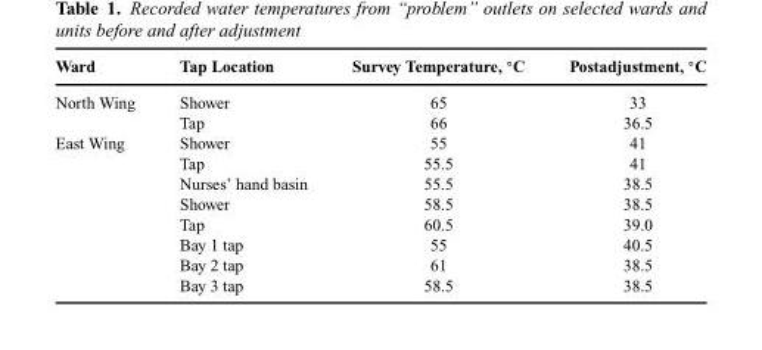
<table><thead><tr><td>Ward</td><td>Tap Location</td><td>Survey Temperature, ◦C</td><td>Postadjustment, ◦C</td></tr></thead><tbody><tr><td rowspan="2">North Wing</td><td>Shower</td><td>65</td><td>33</td></tr><tr><td>Tap</td><td>66</td><td>36.5</td></tr><tr><td rowspan="8">East Wing</td><td>Shower</td><td>55</td><td>41</td></tr><tr><td>Tap</td><td>55.5</td><td>41</td></tr><tr><td>Nurses’ hand basin</td><td>55.5</td><td>38.5</td></tr><tr><td>Shower</td><td>58.5</td><td>38.5</td></tr><tr><td>Tap</td><td>60.5</td><td>39.0</td></tr><tr><td>Bay 1 tap</td><td>55</td><td>40.5</td></tr><tr><td>Bay 2 tap</td><td>61</td><td>38.5</td></tr><tr><td>Bay 3 tap</td><td>58.5</td><td>38.5</td></tr></tbody></table>